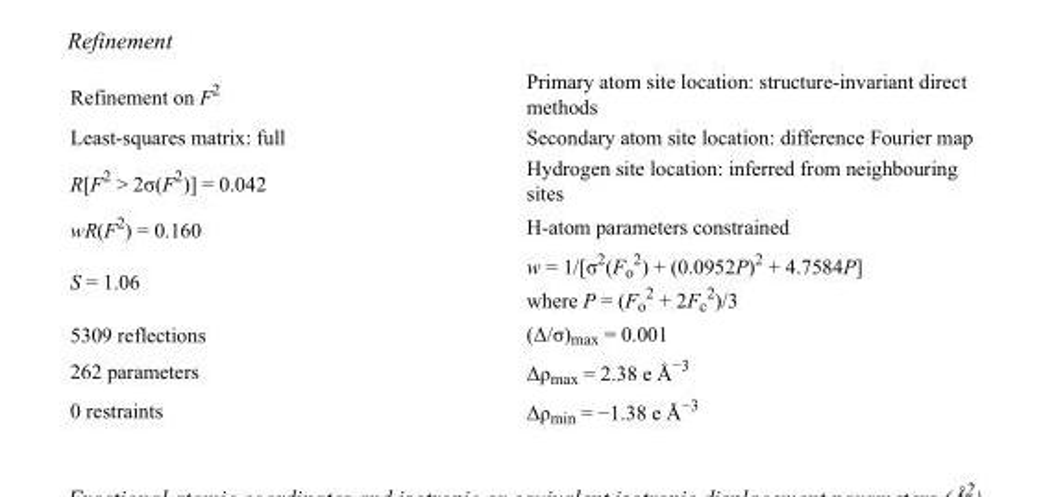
<table><tbody><tr><td>Refinement on F<sup>2</sup></td><td>Primary atom site location: structure-invariant direct methods</td></tr><tr><td>Least-squares matrix: full</td><td>Secondary atom site location: difference Fourier map</td></tr><tr><td>R[F<sup>2</sup> &gt; 2σ(F<sup>2</sup>)] = 0.042</td><td>Hydrogen site location: inferred from neighbouring sites</td></tr><tr><td>wR(F<sup>2</sup>) = 0.160</td><td>H-atom parameters constrained</td></tr><tr><td>S = 1.06</td><td>w = 1/[σ<sup>2</sup>(F<sub>o</sub> <sup>2</sup>) + (0.0952P)<sup>2</sup> + 4.7584P] where P = (F<sub>o</sub> <sup>2</sup> + 2F<sub>c</sub> <sup>2</sup>)/3</td></tr><tr><td>5309 reflections</td><td>(Δ/σ)<sub>max</sub> = 0.001</td></tr><tr><td>262 parameters</td><td>Δρ<sub>max</sub> = 2.38 e Å<sup>−3</sup></td></tr><tr><td>0 restraints</td><td>Δρ<sub>min</sub> = −1.38 e Å<sup>−3</sup></td></tr></tbody></table>